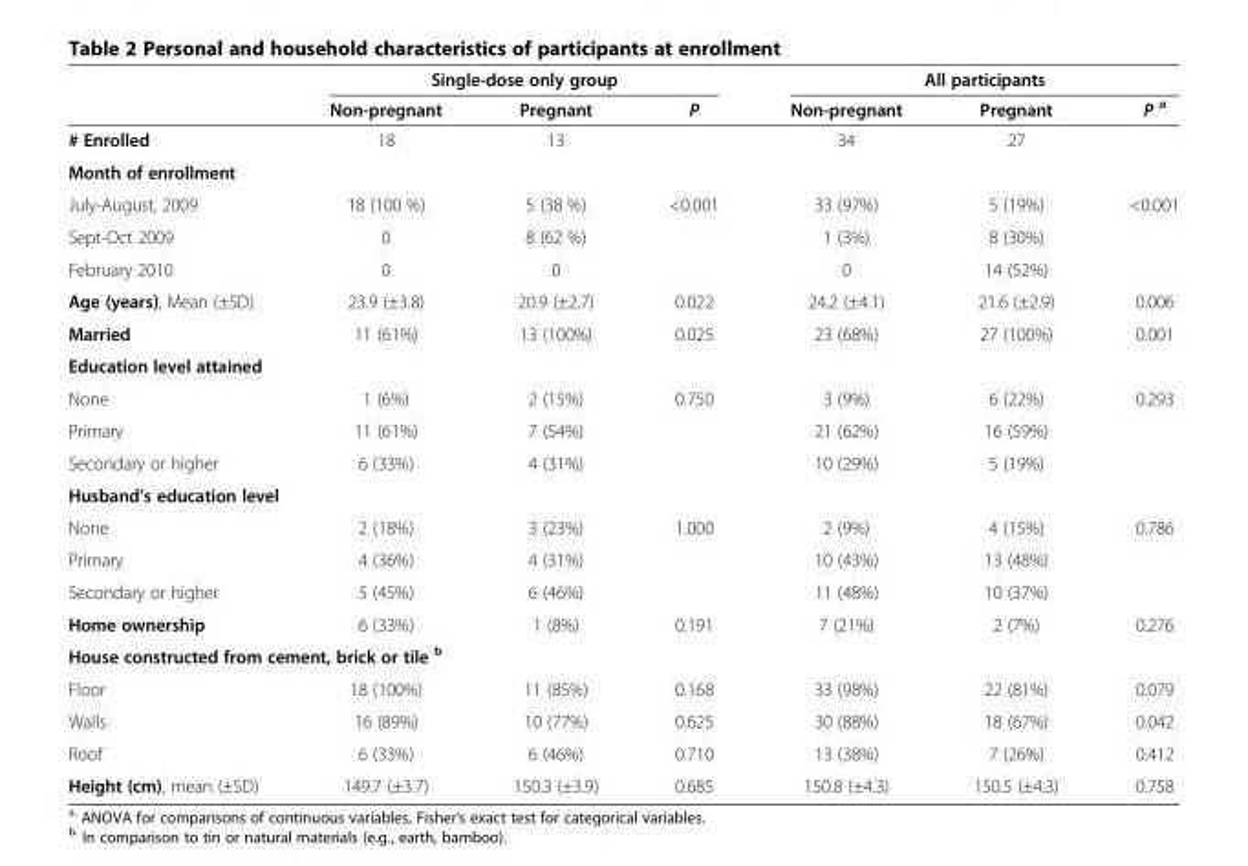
<table><thead><tr><td rowspan="2"></td><td colspan="3">Single-dose only group</td><td colspan="3">All participants</td></tr><tr><td>Non-pregnant</td><td>Pregnant</td><td>P</td><td>Non-pregnant</td><td>Pregnant</td><td>P <sup>a</sup></td></tr></thead><tbody><tr><td># Enrolled</td><td>18</td><td>13</td><td></td><td>34</td><td>27</td><td></td></tr><tr><td colspan="7">Month of enrollment</td></tr><tr><td>July-August, 2009</td><td>18 (100 %)</td><td>5 (38 %)</td><td>&lt;0.001</td><td>33 (97%)</td><td>5 (19%)</td><td>&lt;0.001</td></tr><tr><td>Sept-Oct 2009</td><td>0</td><td>8 (62 %)</td><td></td><td>1 (3%)</td><td>8 (30%)</td><td></td></tr><tr><td>February 2010</td><td>0</td><td>0</td><td></td><td>0</td><td>14 (52%)</td><td></td></tr><tr><td>Age (years), Mean (±SD)</td><td>23.9 (±3.8)</td><td>20.9 (±2.7)</td><td>0.022</td><td>24.2 (±4.1)</td><td>21.6 (±2.9)</td><td>0.006</td></tr><tr><td>Married</td><td>11 (61%)</td><td>13 (100%)</td><td>0.025</td><td>23 (68%)</td><td>27 (100%)</td><td>0.001</td></tr><tr><td colspan="7">Education level attained</td></tr><tr><td>None</td><td>1 (6%)</td><td>2 (15%)</td><td>0.750</td><td>3 (9%)</td><td>6 (22%)</td><td rowspan="3">0.293</td></tr><tr><td>Primary</td><td>11 (61%)</td><td>7 (54%)</td><td></td><td>21 (62%)</td><td>16 (59%)</td></tr><tr><td>Secondary or higher</td><td>6 (33%)</td><td>4 (31%)</td><td></td><td>10 (29%)</td><td>5 (19%)</td></tr><tr><td colspan="7">Husband’s education level</td></tr><tr><td>None</td><td>2 (18%)</td><td>3 (23%)</td><td>1.000</td><td>2 (9%)</td><td>4 (15%)</td><td rowspan="3">0.786</td></tr><tr><td>Primary</td><td>4 (36%)</td><td>4 (31%)</td><td></td><td>10 (43%)</td><td>13 (48%)</td></tr><tr><td>Secondary or higher</td><td>5 (45%)</td><td>6 (46%)</td><td></td><td>11 (48%)</td><td>10 (37%)</td></tr><tr><td>Home ownership</td><td>6 (33%)</td><td>1 (8%)</td><td>0.191</td><td>7 (21%)</td><td>2 (7%)</td><td>0.276</td></tr><tr><td colspan="7">House constructed from cement, brick or tile <sup>b</sup></td></tr><tr><td>Floor</td><td>18 (100%)</td><td>11 (85%)</td><td>0.168</td><td>33 (98%)</td><td>22 (81%)</td><td>0.079</td></tr><tr><td>Walls</td><td>16 (89%)</td><td>10 (77%)</td><td>0.625</td><td>30 (88%)</td><td>18 (67%)</td><td>0.042</td></tr><tr><td>Roof</td><td>6 (33%)</td><td>6 (46%)</td><td>0.710</td><td>13 (38%)</td><td>7 (26%)</td><td>0.412</td></tr><tr><td>Height (cm), mean (±SD)</td><td>149.7 (±3.7)</td><td>150.3 (±3.9)</td><td>0.685</td><td>150.8 (±4.3)</td><td>150.5 (±4.3)</td><td>0.758</td></tr></tbody></table>